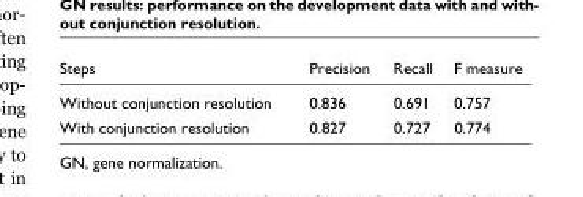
<table><thead><tr><td>Steps</td><td>Precision</td><td>Recall</td><td>F measure</td></tr></thead><tbody><tr><td>Without conjunction resolution</td><td>0.836</td><td>0.691</td><td>0.757</td></tr><tr><td>With conjunction resolution</td><td>0.827</td><td>0.727</td><td>0.774</td></tr></tbody></table>